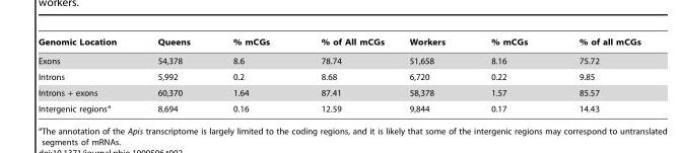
<table><thead><tr><td>Genomic Location</td><td>Queens</td><td>% mCGs</td><td>% of All mCGs</td><td>Workers</td><td>% mCGs</td><td>% of all mCGs</td></tr></thead><tbody><tr><td>Exons</td><td>54,378</td><td>8.6</td><td>78.74</td><td>51,658</td><td>8.16</td><td>75.72</td></tr><tr><td>Introns</td><td>5,992</td><td>0.2</td><td>8.68</td><td>6,720</td><td>0.22</td><td>9.85</td></tr><tr><td>Introns + exons</td><td>60,370</td><td>1.64</td><td>87.41</td><td>58,378</td><td>1.57</td><td>85.57</td></tr><tr><td>Intergenic regions<sup>a</sup></td><td>8,694</td><td>0.16</td><td>12.59</td><td>9,844</td><td>0.17</td><td>14.43</td></tr></tbody></table>